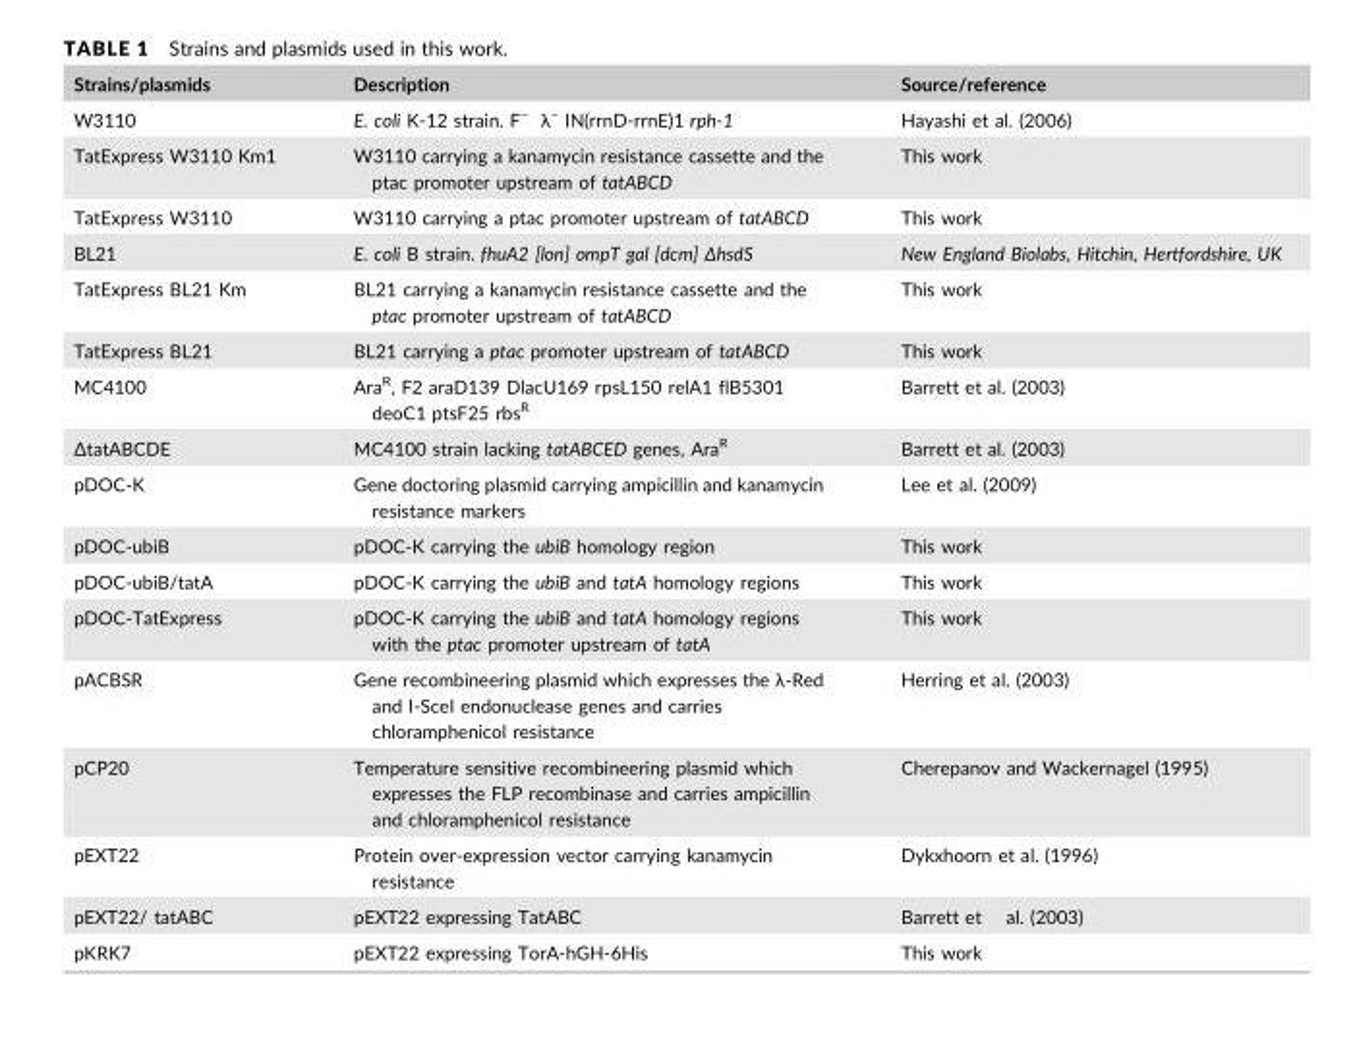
<table><thead><tr><td>Strains/plasmids</td><td>Description</td><td>Source/reference</td></tr></thead><tbody><tr><td>W3110</td><td>E. coli K-12 strain. F<sup>−</sup> λ<sup>−</sup> IN(rrnD-rrnE)1 rph-1</td><td>Hayashi et al. (2006)</td></tr><tr><td>TatExpress W3110 Km1</td><td>W3110 carrying a kanamycin resistance cassette and the ptac promoter upstream of tatABCD</td><td>This work</td></tr><tr><td>TatExpress W3110</td><td>W3110 carrying a ptac promoter upstream of tatABCD</td><td>This work</td></tr><tr><td>BL21</td><td>E. coli B strain. fhuA2 [lon] ompT gal [dcm] ΔhsdS</td><td>New England Biolabs, Hitchin, Hertfordshire, UK</td></tr><tr><td>TatExpress BL21 Km</td><td>BL21 carrying a kanamycin resistance cassette and the ptac promoter upstream of tatABCD</td><td>This work</td></tr><tr><td>TatExpress BL21</td><td>BL21 carrying a ptac promoter upstream of tatABCD</td><td>This work</td></tr><tr><td>MC4100</td><td>Ara<sup>R</sup>, F2 araD139 DlacU169 rpsL150 relA1 flB5301 deoC1 ptsF25 rbs<sup>R</sup></td><td>Barrett et al. (2003)</td></tr><tr><td>ΔtatABCDE</td><td>MC4100 strain lacking tatABCED genes, Ara<sup>R</sup></td><td>Barrett et al. (2003)</td></tr><tr><td>pDOC-K</td><td>Gene doctoring plasmid carrying ampicillin and kanamycin resistance markers</td><td>Lee et al. (2009)</td></tr><tr><td>pDOC-ubiB</td><td>pDOC-K carrying the ubiB homology region</td><td>This work</td></tr><tr><td>pDOC-ubiB/tatA</td><td>pDOC-K carrying the ubiB and tatA homology regions</td><td>This work</td></tr><tr><td>pDOC-TatExpress</td><td>pDOC-K carrying the ubiB and tatA homology regions with the ptac promoter upstream of tatA</td><td>This work</td></tr><tr><td>pACBSR</td><td>Gene recombineering plasmid which expresses the λ-Red and I-SceI endonuclease genes and carries chloramphenicol resistance</td><td>Herring et al. (2003)</td></tr><tr><td>pCP20</td><td>Temperature sensitive recombineering plasmid which expresses the FLP recombinase and carries ampicillin and chloramphenicol resistance</td><td>Cherepanov and Wackernagel (1995)</td></tr><tr><td>pEXT22</td><td>Protein over-expression vector carrying kanamycin resistance</td><td>Dykxhoorn et al. (1996)</td></tr><tr><td>pEXT22/ tatABC</td><td>pEXT22 expressing TatABC</td><td>Barrett et al. (2003)</td></tr><tr><td>pKRK7</td><td>pEXT22 expressing TorA-hGH-6His</td><td>This work</td></tr></tbody></table>